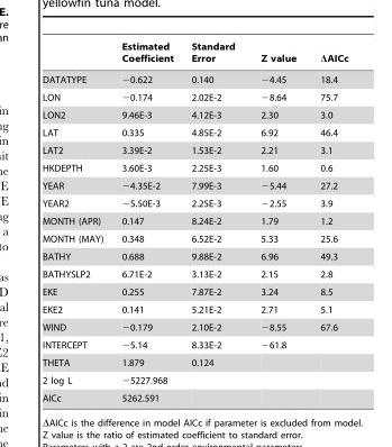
<table><thead><tr><td></td><td>Estimated Coefficient</td><td>Standard Error</td><td>Z value</td><td>ΔAICc</td></tr></thead><tbody><tr><td>DATATYPE</td><td>−0.622</td><td>0.140</td><td>−4.45</td><td>18.4</td></tr><tr><td>LON</td><td>−0.174</td><td>2.02E-2</td><td>−8.64</td><td>75.7</td></tr><tr><td>LON2</td><td>9.46E-3</td><td>4.12E-3</td><td>2.30</td><td>3.0</td></tr><tr><td>LAT</td><td>0.335</td><td>4.85E-2</td><td>6.92</td><td>46.4</td></tr><tr><td>LAT2</td><td>3.39E-2</td><td>1.53E-2</td><td>2.21</td><td>3.1</td></tr><tr><td>HKDEPTH</td><td>3.60E-3</td><td>2.25E-3</td><td>1.60</td><td>0.6</td></tr><tr><td>YEAR</td><td>−4.35E-2</td><td>7.99E-3</td><td>−5.44</td><td>27.2</td></tr><tr><td>YEAR2</td><td>−5.50E-3</td><td>2.25E-3</td><td>−2.55</td><td>3.9</td></tr><tr><td>MONTH (APR)</td><td>0.147</td><td>8.24E-2</td><td>1.79</td><td>1.2</td></tr><tr><td>MONTH (MAY)</td><td>0.348</td><td>6.52E-2</td><td>5.33</td><td>25.6</td></tr><tr><td>BATHY</td><td>0.688</td><td>9.88E-2</td><td>6.96</td><td>49.3</td></tr><tr><td>BATHYSLP2</td><td>6.71E-2</td><td>3.13E-2</td><td>2.15</td><td>2.8</td></tr><tr><td>EKE</td><td>0.255</td><td>7.87E-2</td><td>3.24</td><td>8.5</td></tr><tr><td>EKE2</td><td>0.141</td><td>5.21E-2</td><td>2.71</td><td>5.1</td></tr><tr><td>WIND</td><td>−0.179</td><td>2.10E-2</td><td>−8.55</td><td>67.6</td></tr><tr><td>INTERCEPT</td><td>−5.14</td><td>8.33E-2</td><td>−61.8</td><td></td></tr><tr><td>THETA</td><td>1.879</td><td>0.124</td><td></td><td></td></tr><tr><td>2 log L</td><td>−5227.968</td><td></td><td></td><td></td></tr><tr><td>AICc</td><td>5262.591</td><td></td><td></td><td></td></tr></tbody></table>